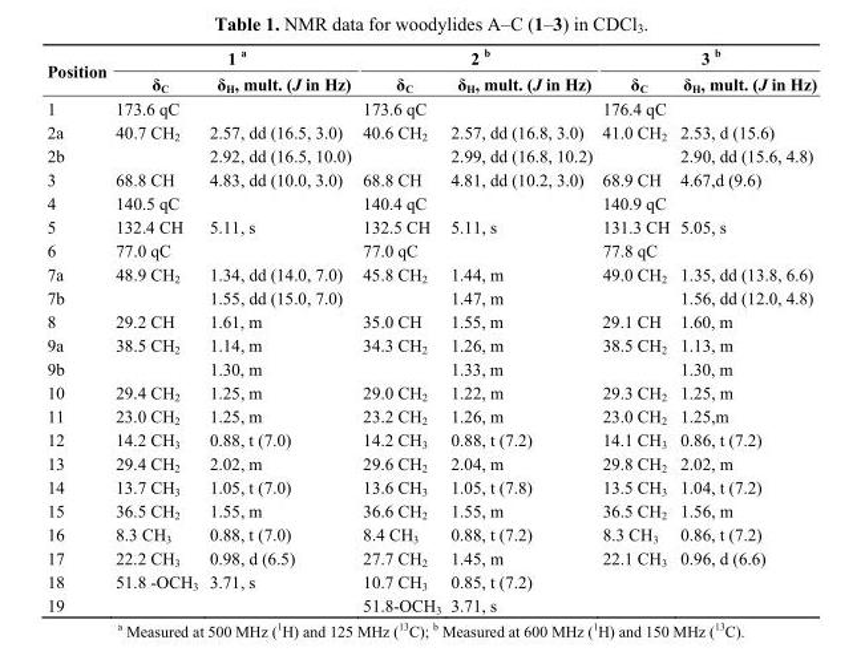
<table><thead><tr><td rowspan="2">Position</td><td colspan="2">1 <sup>a</sup></td><td colspan="2">2 <sup>b</sup></td><td colspan="2">3 <sup>b</sup></td></tr><tr><td>δ<sub>C</sub></td><td>δ<sub>H</sub>, mult. (J in Hz)</td><td>δ<sub>C</sub></td><td>δ<sub>H</sub>, mult. (J in Hz)</td><td>δ<sub>C</sub></td><td>δ<sub>H</sub>, mult. (J in Hz)</td></tr></thead><tbody><tr><td>1</td><td>173.6 qC</td><td></td><td>173.6 qC</td><td></td><td>176.4 qC</td><td></td></tr><tr><td>2a</td><td>40.7 CH<sub>2</sub></td><td>2.57, dd (16.5, 3.0)</td><td>40.6 CH<sub>2</sub></td><td>2.57, dd (16.8, 3.0)</td><td>41.0 CH<sub>2</sub></td><td>2.53, d (15.6)</td></tr><tr><td>2b</td><td></td><td>2.92, dd (16.5, 10.0)</td><td></td><td>2.99, dd (16.8, 10.2)</td><td></td><td>2.90, dd (15.6, 4.8)</td></tr><tr><td>3</td><td>68.8 CH</td><td>4.83, dd (10.0, 3.0)</td><td>68.8 CH</td><td>4.81, dd (10.2, 3.0)</td><td>68.9 CH</td><td>4.67,d (9.6)</td></tr><tr><td>4</td><td>140.5 qC</td><td></td><td>140.4 qC</td><td></td><td>140.9 qC</td><td></td></tr><tr><td>5</td><td>132.4 CH</td><td>5.11, s</td><td>132.5 CH</td><td>5.11, s</td><td>131.3 CH</td><td>5.05, s</td></tr><tr><td>6</td><td>77.0 qC</td><td></td><td>77.0 qC</td><td></td><td>77.8 qC</td><td></td></tr><tr><td>7a</td><td>48.9 CH<sub>2</sub></td><td>1.34, dd (14.0, 7.0)</td><td>45.8 CH<sub>2</sub></td><td>1.44, m</td><td>49.0 CH<sub>2</sub></td><td>1.35, dd (13.8, 6.6)</td></tr><tr><td>7b</td><td></td><td>1.55, dd (15.0, 7.0)</td><td></td><td>1.47, m</td><td></td><td>1.56, dd (12.0, 4.8)</td></tr><tr><td>8</td><td>29.2 CH</td><td>1.61, m</td><td>35.0 CH</td><td>1.55, m</td><td>29.1 CH</td><td>1.60, m</td></tr><tr><td>9a</td><td>38.5 CH<sub>2</sub></td><td>1.14, m</td><td>34.3 CH<sub>2</sub></td><td>1.26, m</td><td>38.5 CH<sub>2</sub></td><td>1.13, m</td></tr><tr><td>9b</td><td></td><td>1.30, m</td><td></td><td>1.33, m</td><td></td><td>1.30, m</td></tr><tr><td>10</td><td>29.4 CH<sub>2</sub></td><td>1.25, m</td><td>29.0 CH<sub>2</sub></td><td>1.22, m</td><td>29.3 CH<sub>2</sub></td><td>1.25, m</td></tr><tr><td>11</td><td>23.0 CH<sub>2</sub></td><td>1.25, m</td><td>23.2 CH<sub>2</sub></td><td>1.26, m</td><td>23.0 CH<sub>2</sub></td><td>1.25,m</td></tr><tr><td>12</td><td>14.2 CH<sub>3</sub></td><td>0.88, t (7.0)</td><td>14.2 CH<sub>3</sub></td><td>0.88, t (7.2)</td><td>14.1 CH<sub>3</sub></td><td>0.86, t (7.2)</td></tr><tr><td>13</td><td>29.4 CH<sub>2</sub></td><td>2.02, m</td><td>29.6 CH<sub>2</sub></td><td>2.04, m</td><td>29.8 CH<sub>2</sub></td><td>2.02, m</td></tr><tr><td>14</td><td>13.7 CH<sub>3</sub></td><td>1.05, t (7.0)</td><td>13.6 CH<sub>3</sub></td><td>1.05, t (7.8)</td><td>13.5 CH<sub>3</sub></td><td>1.04, t (7.2)</td></tr><tr><td>15</td><td>36.5 CH<sub>2</sub></td><td>1.55, m</td><td>36.6 CH<sub>2</sub></td><td>1.55, m</td><td>36.5 CH<sub>2</sub></td><td>1.56, m</td></tr><tr><td>16</td><td>8.3 CH<sub>3</sub></td><td>0.88, t (7.0)</td><td>8.4 CH<sub>3</sub></td><td>0.88, t (7.2)</td><td>8.3 CH<sub>3</sub></td><td>0.86, t (7.2)</td></tr><tr><td>17</td><td>22.2 CH<sub>3</sub></td><td>0.98, d (6.5)</td><td>27.7 CH<sub>2</sub></td><td>1.45, m</td><td>22.1 CH<sub>3</sub></td><td>0.96, d (6.6)</td></tr><tr><td>18</td><td>51.8 -OCH<sub>3</sub></td><td>3.71, s</td><td>10.7 CH<sub>3</sub></td><td>0.85, t (7.2)</td><td></td><td></td></tr><tr><td>19</td><td></td><td></td><td>51.8-OCH<sub>3</sub></td><td>3.71, s</td><td></td><td></td></tr></tbody></table>